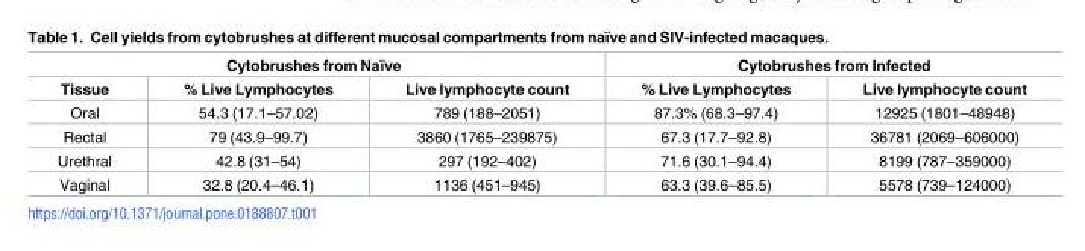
<table><thead><tr><td colspan="3">Cytobrushes from Naïve</td><td colspan="2">Cytobrushes from Infected</td></tr><tr><td>Tissue</td><td>% Live Lymphocytes</td><td>Live lymphocyte count</td><td>% Live Lymphocytes</td><td>Live lymphocyte count</td></tr></thead><tbody><tr><td>Oral</td><td>54.3 (17.1–57.02)</td><td>789 (188–2051)</td><td>87.3% (68.3–97.4)</td><td>12925 (1801–48948)</td></tr><tr><td>Rectal</td><td>79 (43.9–99.7)</td><td>3860 (1765–239875)</td><td>67.3 (17.7–92.8)</td><td>36781 (2069–606000)</td></tr><tr><td>Urethral</td><td>42.8 (31–54)</td><td>297 (192–402)</td><td>71.6 (30.1–94.4)</td><td>8199 (787–359000)</td></tr><tr><td>Vaginal</td><td>32.8 (20.4–46.1)</td><td>1136 (451–945)</td><td>63.3 (39.6–85.5)</td><td>5578 (739–124000)</td></tr></tbody></table>